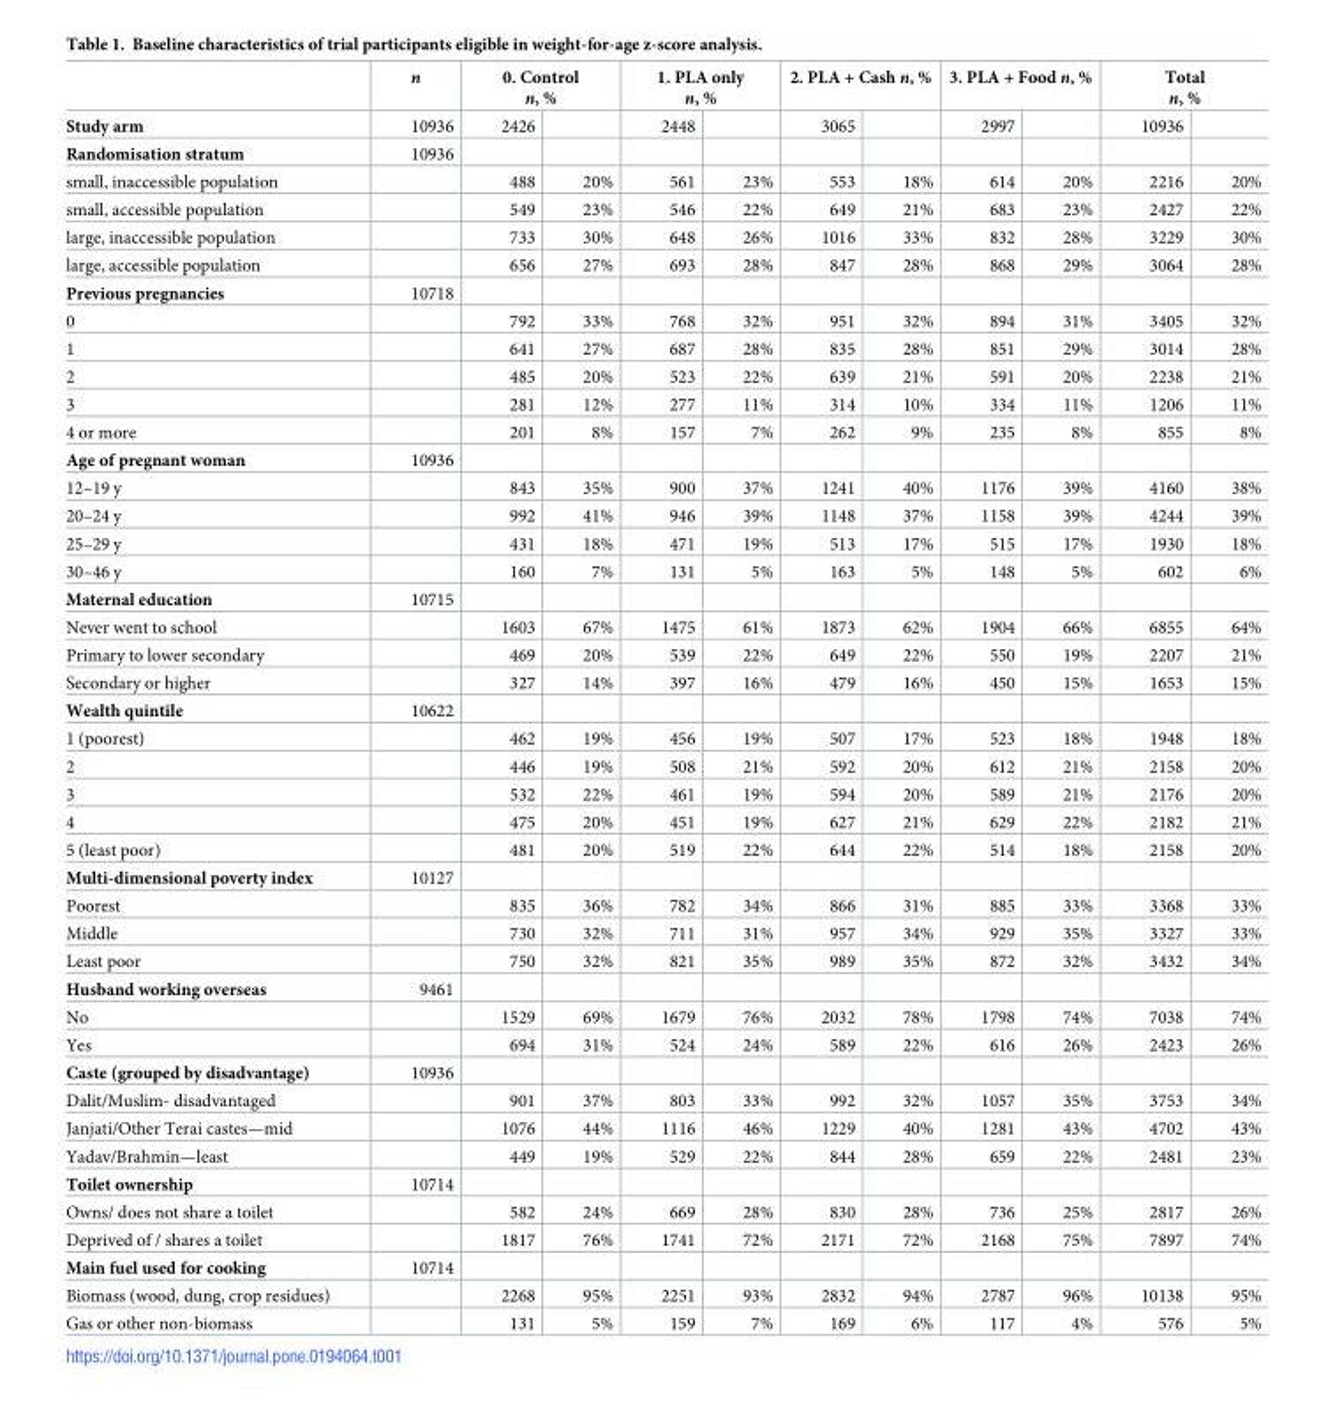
<table><thead><tr><td rowspan="2">Study arm</td><td rowspan="2">n 10936</td><td colspan="2">0. Control n, %</td><td colspan="2">1. PLA only n, %</td><td colspan="2">2. PLA + Cash n, %</td><td colspan="2">3. PLA + Food n, %</td><td colspan="2">Total n, %</td></tr><tr><td>2426</td><td></td><td>2448</td><td></td><td>3065</td><td></td><td>2997</td><td></td><td>10936</td><td></td></tr></thead><tbody><tr><td>Randomisation stratum</td><td>10936</td><td></td><td></td><td></td><td></td><td></td><td></td><td></td><td></td><td></td><td></td></tr><tr><td>small, inaccessible population</td><td></td><td>488</td><td>20%</td><td>561</td><td>23%</td><td>553</td><td>18%</td><td>614</td><td>20%</td><td>2216</td><td>20%</td></tr><tr><td>small, accessible population</td><td></td><td>549</td><td>23%</td><td>546</td><td>22%</td><td>649</td><td>21%</td><td>683</td><td>23%</td><td>2427</td><td>22%</td></tr><tr><td>large, inaccessible population</td><td></td><td>733</td><td>30%</td><td>648</td><td>26%</td><td>1016</td><td>33%</td><td>832</td><td>28%</td><td>3229</td><td>30%</td></tr><tr><td>large, accessible population</td><td></td><td>656</td><td>27%</td><td>693</td><td>28%</td><td>847</td><td>28%</td><td>868</td><td>29%</td><td>3064</td><td>28%</td></tr><tr><td>Previous pregnancies</td><td>10718</td><td></td><td></td><td></td><td></td><td></td><td></td><td></td><td></td><td></td><td></td></tr><tr><td>0</td><td></td><td>792</td><td>33%</td><td>768</td><td>32%</td><td>951</td><td>32%</td><td>894</td><td>31%</td><td>3405</td><td>32%</td></tr><tr><td>1</td><td></td><td>641</td><td>27%</td><td>687</td><td>28%</td><td>835</td><td>28%</td><td>851</td><td>29%</td><td>3014</td><td>28%</td></tr><tr><td>2</td><td></td><td>485</td><td>20%</td><td>523</td><td>22%</td><td>639</td><td>21%</td><td>591</td><td>20%</td><td>2238</td><td>21%</td></tr><tr><td>3</td><td></td><td>281</td><td>12%</td><td>277</td><td>11%</td><td>314</td><td>10%</td><td>334</td><td>11%</td><td>1206</td><td>11%</td></tr><tr><td>4 or more</td><td></td><td>201</td><td>8%</td><td>157</td><td>7%</td><td>262</td><td>9%</td><td>235</td><td>8%</td><td>855</td><td>8%</td></tr><tr><td>Age of pregnant woman</td><td>10936</td><td></td><td></td><td></td><td></td><td></td><td></td><td></td><td></td><td></td><td></td></tr><tr><td>12–19 y</td><td></td><td>843</td><td>35%</td><td>900</td><td>37%</td><td>1241</td><td>40%</td><td>1176</td><td>39%</td><td>4160</td><td>38%</td></tr><tr><td>20–24 y</td><td></td><td>992</td><td>41%</td><td>946</td><td>39%</td><td>1148</td><td>37%</td><td>1158</td><td>39%</td><td>4244</td><td>39%</td></tr><tr><td>25–29 y</td><td></td><td>431</td><td>18%</td><td>471</td><td>19%</td><td>513</td><td>17%</td><td>515</td><td>17%</td><td>1930</td><td>18%</td></tr><tr><td>30–46 y</td><td></td><td>160</td><td>7%</td><td>131</td><td>5%</td><td>163</td><td>5%</td><td>148</td><td>5%</td><td>602</td><td>6%</td></tr><tr><td>Maternal education</td><td>10715</td><td></td><td></td><td></td><td></td><td></td><td></td><td></td><td></td><td></td><td></td></tr><tr><td>Never went to school</td><td></td><td>1603</td><td>67%</td><td>1475</td><td>61%</td><td>1873</td><td>62%</td><td>1904</td><td>66%</td><td>6855</td><td>64%</td></tr><tr><td>Primary to lower secondary</td><td></td><td>469</td><td>20%</td><td>539</td><td>22%</td><td>649</td><td>22%</td><td>550</td><td>19%</td><td>2207</td><td>21%</td></tr><tr><td>Secondary or higher</td><td></td><td>327</td><td>14%</td><td>397</td><td>16%</td><td>479</td><td>16%</td><td>450</td><td>15%</td><td>1653</td><td>15%</td></tr><tr><td>Wealth quintile</td><td>10622</td><td></td><td></td><td></td><td></td><td></td><td></td><td></td><td></td><td></td><td></td></tr><tr><td>1 (poorest)</td><td></td><td>462</td><td>19%</td><td>456</td><td>19%</td><td>507</td><td>17%</td><td>523</td><td>18%</td><td>1948</td><td>18%</td></tr><tr><td>2</td><td></td><td>446</td><td>19%</td><td>508</td><td>21%</td><td>592</td><td>20%</td><td>612</td><td>21%</td><td>2158</td><td>20%</td></tr><tr><td>3</td><td></td><td>532</td><td>22%</td><td>461</td><td>19%</td><td>594</td><td>20%</td><td>589</td><td>21%</td><td>2176</td><td>20%</td></tr><tr><td>4</td><td></td><td>475</td><td>20%</td><td>451</td><td>19%</td><td>627</td><td>21%</td><td>629</td><td>22%</td><td>2182</td><td>21%</td></tr><tr><td>5 (least poor)</td><td></td><td>481</td><td>20%</td><td>519</td><td>22%</td><td>644</td><td>22%</td><td>514</td><td>18%</td><td>2158</td><td>20%</td></tr><tr><td>Multi-dimensional poverty index</td><td>10127</td><td></td><td></td><td></td><td></td><td></td><td></td><td></td><td></td><td></td><td></td></tr><tr><td>Poorest</td><td></td><td>835</td><td>36%</td><td>782</td><td>34%</td><td>866</td><td>31%</td><td>885</td><td>33%</td><td>3368</td><td>33%</td></tr><tr><td>Middle</td><td></td><td>730</td><td>32%</td><td>711</td><td>31%</td><td>957</td><td>34%</td><td>929</td><td>35%</td><td>3327</td><td>33%</td></tr><tr><td>Least poor</td><td></td><td>750</td><td>32%</td><td>821</td><td>35%</td><td>989</td><td>35%</td><td>872</td><td>32%</td><td>3432</td><td>34%</td></tr><tr><td>Husband working overseas</td><td>9461</td><td></td><td></td><td></td><td></td><td></td><td></td><td></td><td></td><td></td><td></td></tr><tr><td>No</td><td></td><td>1529</td><td>69%</td><td>1679</td><td>76%</td><td>2032</td><td>78%</td><td>1798</td><td>74%</td><td>7038</td><td>74%</td></tr><tr><td>Yes</td><td></td><td>694</td><td>31%</td><td>524</td><td>24%</td><td>589</td><td>22%</td><td>616</td><td>26%</td><td>2423</td><td>26%</td></tr><tr><td>Caste (grouped by disadvantage)</td><td>10936</td><td></td><td></td><td></td><td></td><td></td><td></td><td></td><td></td><td></td><td></td></tr><tr><td>Dalit/Muslim- disadvantaged</td><td></td><td>901</td><td>37%</td><td>803</td><td>33%</td><td>992</td><td>32%</td><td>1057</td><td>35%</td><td>3753</td><td>34%</td></tr><tr><td>Janjati/Other Terai castes—mid</td><td></td><td>1076</td><td>44%</td><td>1116</td><td>46%</td><td>1229</td><td>40%</td><td>1281</td><td>43%</td><td>4702</td><td>43%</td></tr><tr><td>Yadav/Brahmin—least</td><td></td><td>449</td><td>19%</td><td>529</td><td>22%</td><td>844</td><td>28%</td><td>659</td><td>22%</td><td>2481</td><td>23%</td></tr><tr><td>Toilet ownership</td><td>10714</td><td></td><td></td><td></td><td></td><td></td><td></td><td></td><td></td><td></td><td></td></tr><tr><td>Owns/ does not share a toilet</td><td></td><td>582</td><td>24%</td><td>669</td><td>28%</td><td>830</td><td>28%</td><td>736</td><td>25%</td><td>2817</td><td>26%</td></tr><tr><td>Deprived of / shares a toilet</td><td></td><td>1817</td><td>76%</td><td>1741</td><td>72%</td><td>2171</td><td>72%</td><td>2168</td><td>75%</td><td>7897</td><td>74%</td></tr><tr><td>Main fuel used for cooking</td><td>10714</td><td></td><td></td><td></td><td></td><td></td><td></td><td></td><td></td><td></td><td></td></tr><tr><td>Biomass (wood, dung, crop residues)</td><td></td><td>2268</td><td>95%</td><td>2251</td><td>93%</td><td>2832</td><td>94%</td><td>2787</td><td>96%</td><td>10138</td><td>95%</td></tr><tr><td>Gas or other non-biomass</td><td></td><td>131</td><td>5%</td><td>159</td><td>7%</td><td>169</td><td>6%</td><td>117</td><td>4%</td><td>576</td><td>5%</td></tr></tbody></table>